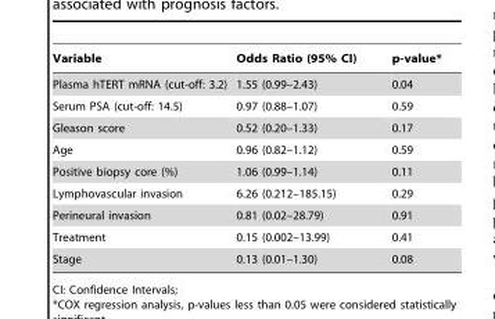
<table><thead><tr><td>Variable</td><td>Odds Ratio (95% CI)</td><td>p-value*</td></tr></thead><tbody><tr><td>Plasma hTERT mRNA (cut-off: 3.2)</td><td>1.55 (0.99–2.43)</td><td>0.04</td></tr><tr><td>Serum PSA (cut-off: 14.5)</td><td>0.97 (0.88–1.07)</td><td>0.59</td></tr><tr><td>Gleason score</td><td>0.52 (0.20–1.33)</td><td>0.17</td></tr><tr><td>Age</td><td>0.96 (0.82–1.12)</td><td>0.59</td></tr><tr><td>Positive biopsy core (%)</td><td>1.06 (0.99–1.14)</td><td>0.11</td></tr><tr><td>Lymphovascular invasion</td><td>6.26 (0.212–185.15)</td><td>0.29</td></tr><tr><td>Perineural invasion</td><td>0.81 (0.02–28.79)</td><td>0.91</td></tr><tr><td>Treatment</td><td>0.15 (0.002–13.99)</td><td>0.41</td></tr><tr><td>Stage</td><td>0.13 (0.01–1.30)</td><td>0.08</td></tr></tbody></table>